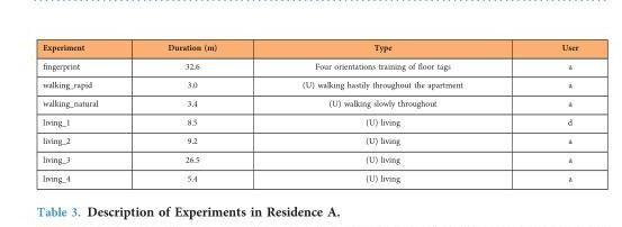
<table><thead><tr><td>Experiment</td><td>Duration (m)</td><td>Type</td><td>User</td></tr></thead><tbody><tr><td>fingerprint</td><td>32.6</td><td>Four orientations training of floor tags</td><td>a</td></tr><tr><td>walking_rapid</td><td>3.0</td><td>(U) walking hastily throughout the apartment</td><td>a</td></tr><tr><td>walking_natural</td><td>3.4</td><td>(U) walking slowly throughout</td><td>a</td></tr><tr><td>living_1</td><td>8.5</td><td>(U) living</td><td>d</td></tr><tr><td>living_2</td><td>9.2</td><td>(U) living</td><td>a</td></tr><tr><td>living_3</td><td>26.5</td><td>(U) living</td><td>a</td></tr><tr><td>living_4</td><td>5.4</td><td>(U) living</td><td>a</td></tr></tbody></table>